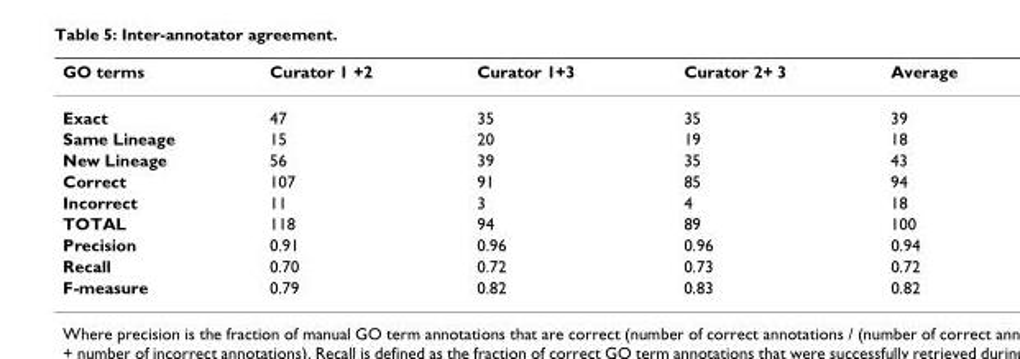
<table><thead><tr><td>GO terms</td><td>Curator 1 +2</td><td>Curator 1+3</td><td>Curator 2+ 3</td><td>Average</td></tr></thead><tbody><tr><td>Exact</td><td>47</td><td>35</td><td>35</td><td>39</td></tr><tr><td>Same Lineage</td><td>15</td><td>20</td><td>19</td><td>18</td></tr><tr><td>New Lineage</td><td>56</td><td>39</td><td>35</td><td>43</td></tr><tr><td>Correct</td><td>107</td><td>91</td><td>85</td><td>94</td></tr><tr><td>Incorrect</td><td>11</td><td>3</td><td>4</td><td>18</td></tr><tr><td>TOTAL</td><td>118</td><td>94</td><td>89</td><td>100</td></tr><tr><td>Precision</td><td>0.91</td><td>0.96</td><td>0.96</td><td>0.94</td></tr><tr><td>Recall</td><td>0.70</td><td>0.72</td><td>0.73</td><td>0.72</td></tr><tr><td>F-measure</td><td>0.79</td><td>0.82</td><td>0.83</td><td>0.82</td></tr></tbody></table>